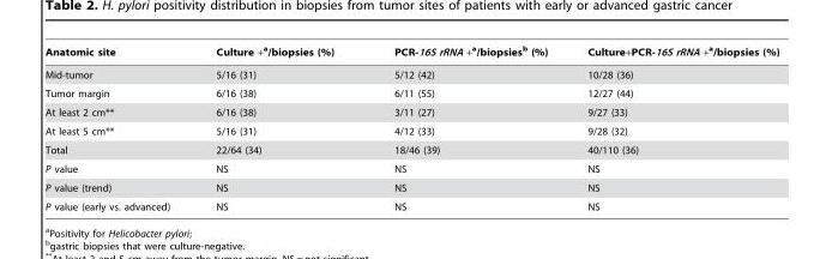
<table><thead><tr><td>Anatomic site</td><td>Culture +<sup>a</sup>/biopsies (%)</td><td>PCR-16S rRNA +<sup>a</sup>/biopsies<sup>b</sup> (%)</td><td>Culture+PCR-16S rRNA +<sup>a</sup>/biopsies (%)</td></tr></thead><tbody><tr><td>Mid-tumor</td><td>5/16 (31)</td><td>5/12 (42)</td><td>10/28 (36)</td></tr><tr><td>Tumor margin</td><td>6/16 (38)</td><td>6/11 (55)</td><td>12/27 (44)</td></tr><tr><td>At least 2 cm**</td><td>6/16 (38)</td><td>3/11 (27)</td><td>9/27 (33)</td></tr><tr><td>At least 5 cm**</td><td>5/16 (31)</td><td>4/12 (33)</td><td>9/28 (32)</td></tr><tr><td>Total</td><td>22/64 (34)</td><td>18/46 (39)</td><td>40/110 (36)</td></tr><tr><td>P value</td><td>NS</td><td>NS</td><td>NS</td></tr><tr><td>P value (trend)</td><td>NS</td><td>NS</td><td>NS</td></tr><tr><td>P value (early vs. advanced)</td><td>NS</td><td>NS</td><td>NS</td></tr></tbody></table>